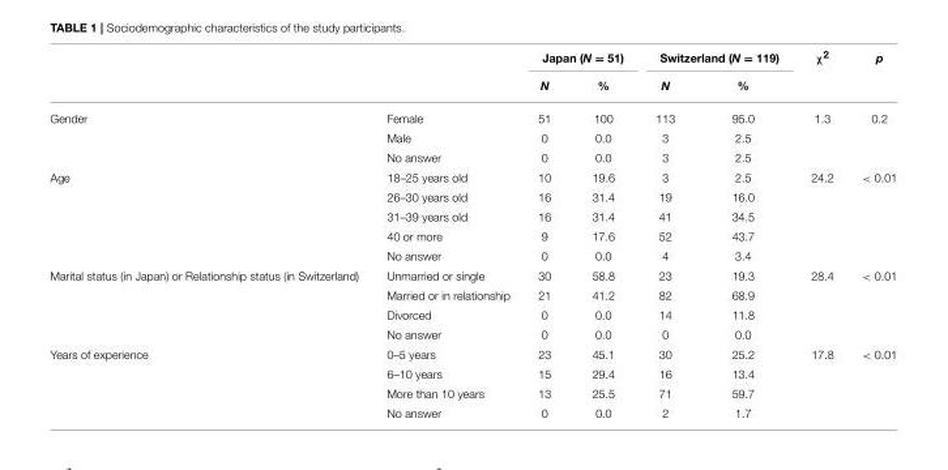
<table><thead><tr><td rowspan="2"></td><td rowspan="2"></td><td colspan="2">Japan (N = 51)</td><td colspan="2">Switzerland (N = 119)</td><td rowspan="2">χ<sup>2</sup></td><td rowspan="2">p</td></tr><tr><td>N</td><td>%</td><td>N</td><td>%</td></tr></thead><tbody><tr><td rowspan="3">Gender</td><td>Female</td><td>51</td><td>100</td><td>113</td><td>95.0</td><td>1.3</td><td>0.2</td></tr><tr><td>Male</td><td>0</td><td>0.0</td><td>3</td><td>2.5</td><td></td><td></td></tr><tr><td>No answer</td><td>0</td><td>0.0</td><td>3</td><td>2.5</td><td></td><td></td></tr><tr><td rowspan="5">Age</td><td>18–25 years old</td><td>10</td><td>19.6</td><td>3</td><td>2.5</td><td>24.2</td><td>&lt; 0.01</td></tr><tr><td>26–30 years old</td><td>16</td><td>31.4</td><td>19</td><td>16.0</td><td></td><td></td></tr><tr><td>31–39 years old</td><td>16</td><td>31.4</td><td>41</td><td>34.5</td><td></td><td></td></tr><tr><td>40 or more</td><td>9</td><td>17.6</td><td>52</td><td>43.7</td><td></td><td></td></tr><tr><td>No answer</td><td>0</td><td>0.0</td><td>4</td><td>3.4</td><td></td><td></td></tr><tr><td rowspan="4">Marital status (in Japan) or Relationship status (in Switzerland)</td><td>Unmarried or single</td><td>30</td><td>58.8</td><td>23</td><td>19.3</td><td>28.4</td><td>&lt; 0.01</td></tr><tr><td>Married or in relationship</td><td>21</td><td>41.2</td><td>82</td><td>68.9</td><td></td><td></td></tr><tr><td>Divorced</td><td>0</td><td>0.0</td><td>14</td><td>11.8</td><td></td><td></td></tr><tr><td>No answer</td><td>0</td><td>0.0</td><td>0</td><td>0.0</td><td></td><td></td></tr><tr><td rowspan="4">Years of experience</td><td>0–5 years</td><td>23</td><td>45.1</td><td>30</td><td>25.2</td><td>17.8</td><td>&lt; 0.01</td></tr><tr><td>6–10 years</td><td>15</td><td>29.4</td><td>16</td><td>13.4</td><td></td><td></td></tr><tr><td>More than 10 years</td><td>13</td><td>25.5</td><td>71</td><td>59.7</td><td></td><td></td></tr><tr><td>No answer</td><td>0</td><td>0.0</td><td>2</td><td>1.7</td><td></td><td></td></tr></tbody></table>